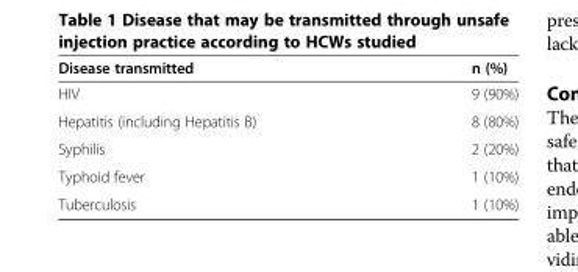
<table><thead><tr><td>Disease transmitted</td><td>n (%)</td></tr></thead><tbody><tr><td>HIV</td><td>9 (90%)</td></tr><tr><td>Hepatitis (including Hepatitis B)</td><td>8 (80%)</td></tr><tr><td>Syphilis</td><td>2 (20%)</td></tr><tr><td>Typhoid fever</td><td>1 (10%)</td></tr><tr><td>Tuberculosis</td><td>1 (10%)</td></tr></tbody></table>